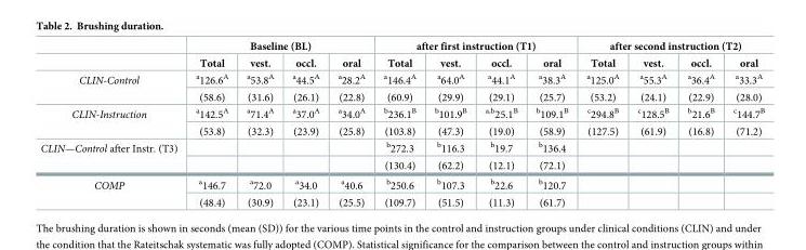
<table><thead><tr><td rowspan="2"></td><td colspan="4">Baseline (BL)</td><td colspan="4">after first instruction (T1)</td><td colspan="4">after second instruction (T2)</td></tr><tr><td>Total</td><td>vest.</td><td>occl.</td><td>oral</td><td>Total</td><td>vest.</td><td>occl.</td><td>oral</td><td>Total</td><td>vest.</td><td>occl.</td><td>oral</td></tr></thead><tbody><tr><td rowspan="2">CLIN-Control</td><td><sup>a</sup>126.6<sup>A</sup></td><td><sup>a</sup>53.8<sup>A</sup></td><td><sup>a</sup>44.5<sup>A</sup></td><td><sup>a</sup>28.2<sup>A</sup></td><td><sup>a</sup>146.4<sup>A</sup></td><td><sup>a</sup>64.0<sup>A</sup></td><td><sup>a</sup>44.1<sup>A</sup></td><td><sup>a</sup>38.3<sup>A</sup></td><td><sup>a</sup>125.0<sup>A</sup></td><td><sup>a</sup>55.3<sup>A</sup></td><td><sup>a</sup>36.4<sup>A</sup></td><td><sup>a</sup>33.3<sup>A</sup></td></tr><tr><td>(58.6)</td><td>(31.6)</td><td>(26.1)</td><td>(22.8)</td><td>(60.9)</td><td>(29.9)</td><td>(29.1)</td><td>(25.7)</td><td>(53.2)</td><td>(24.1)</td><td>(22.9)</td><td>(28.0)</td></tr><tr><td rowspan="2">CLIN-Instruction</td><td><sup>a</sup>142.5<sup>A</sup></td><td><sup>a</sup>71.4<sup>A</sup></td><td><sup>a</sup>37.0<sup>A</sup></td><td><sup>a</sup>34.0<sup>A</sup></td><td><sup>b</sup>236.1<sup>B</sup></td><td><sup>b</sup>101.9<sup>B</sup></td><td><sup>a,b</sup>25.1<sup>B</sup></td><td><sup>b</sup>109.1<sup>B</sup></td><td><sup>c</sup>294.8<sup>B</sup></td><td><sup>c</sup>128.5<sup>B</sup></td><td><sup>b</sup>21.6<sup>B</sup></td><td><sup>c</sup>144.7<sup>B</sup></td></tr><tr><td>(53.8)</td><td>(32.3)</td><td>(23.9)</td><td>(25.8)</td><td>(103.8)</td><td>(47.3)</td><td>(19.0)</td><td>(58.9)</td><td>(127.5)</td><td>(61.9)</td><td>(16.8)</td><td>(71.2)</td></tr><tr><td rowspan="2">CLIN—Control after Instr. (T3)</td><td></td><td></td><td></td><td></td><td><sup>b</sup>272.3</td><td><sup>b</sup>116.3</td><td><sup>b</sup>19.7</td><td><sup>b</sup>136.4</td><td></td><td></td><td></td><td></td></tr><tr><td></td><td></td><td></td><td></td><td>(130.4)</td><td>(62.2)</td><td>(12.1)</td><td>(72.1)</td><td></td><td></td><td></td><td></td></tr><tr><td rowspan="2">COMP</td><td><sup>a</sup>146.7</td><td><sup>a</sup>72.0</td><td><sup>a</sup>34.0</td><td><sup>a</sup>40.6</td><td><sup>b</sup>250.6</td><td><sup>b</sup>107.3</td><td><sup>b</sup>22.6</td><td><sup>b</sup>120.7</td><td></td><td></td><td></td><td></td></tr><tr><td>(48.4)</td><td>(30.9)</td><td>(23.1)</td><td>(25.5)</td><td>(109.7)</td><td>(51.5)</td><td>(11.3)</td><td>(61.7)</td><td></td><td></td><td></td><td></td></tr></tbody></table>